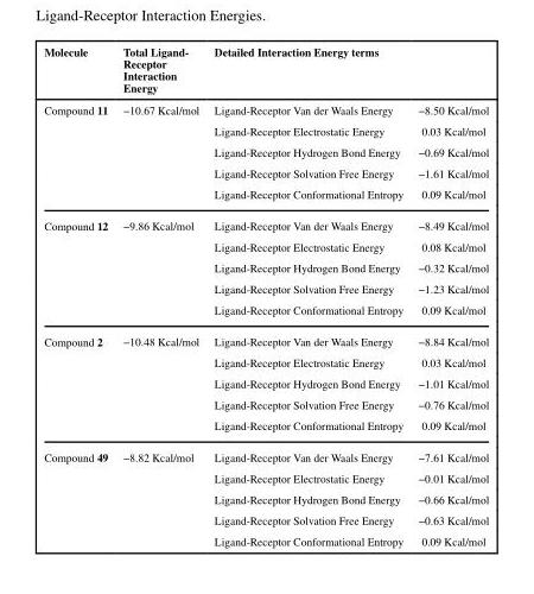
<table><thead><tr><td>Molecule</td><td>Total Ligand- Receptor Interaction Energy</td><td>Detailed Interaction Energy terms</td><td></td></tr></thead><tbody><tr><td rowspan="5">Compound 11</td><td>−10.67 Kcal/mol</td><td>Ligand-Receptor Van der Waals Energy</td><td>−8.50 Kcal/mol</td></tr><tr><td></td><td>Ligand-Receptor Electrostatic Energy</td><td>0.03 Kcal/mol</td></tr><tr><td></td><td>Ligand-Receptor Hydrogen Bond Energy</td><td>−0.69 Kcal/mol</td></tr><tr><td></td><td>Ligand-Receptor Solvation Free Energy</td><td>−1.61 Kcal/mol</td></tr><tr><td></td><td>Ligand-Receptor Conformational Entropy</td><td>0.09 Kcal/mol</td></tr><tr><td rowspan="5">Compound 12</td><td>−9.86 Kcal/mol</td><td>Ligand-Receptor Van der Waals Energy</td><td>−8.49 Kcal/mol</td></tr><tr><td></td><td>Ligand-Receptor Electrostatic Energy</td><td>0.08 Kcal/mol</td></tr><tr><td></td><td>Ligand-Receptor Hydrogen Bond Energy</td><td>−0.32 Kcal/mol</td></tr><tr><td></td><td>Ligand-Receptor Solvation Free Energy</td><td>−1.23 Kcal/mol</td></tr><tr><td></td><td>Ligand-Receptor Conformational Entropy</td><td>0.09 Kcal/mol</td></tr><tr><td rowspan="5">Compound 2</td><td>−10.48 Kcal/mol</td><td>Ligand-Receptor Van der Waals Energy</td><td>−8.84 Kcal/mol</td></tr><tr><td></td><td>Ligand-Receptor Electrostatic Energy</td><td>0.03 Kcal/mol</td></tr><tr><td></td><td>Ligand-Receptor Hydrogen Bond Energy</td><td>−1.01 Kcal/mol</td></tr><tr><td></td><td>Ligand-Receptor Solvation Free Energy</td><td>−0.76 Kcal/mol</td></tr><tr><td></td><td>Ligand-Receptor Conformational Entropy</td><td>0.09 Kcal/mol</td></tr><tr><td rowspan="5">Compound 49</td><td>−8.82 Kcal/mol</td><td>Ligand-Receptor Van der Waals Energy</td><td>−7.61 Kcal/mol</td></tr><tr><td></td><td>Ligand-Receptor Electrostatic Energy</td><td>−0.01 Kcal/mol</td></tr><tr><td></td><td>Ligand-Receptor Hydrogen Bond Energy</td><td>−0.66 Kcal/mol</td></tr><tr><td></td><td>Ligand-Receptor Solvation Free Energy</td><td>−0.63 Kcal/mol</td></tr><tr><td></td><td>Ligand-Receptor Conformational Entropy</td><td>0.09 Kcal/mol</td></tr></tbody></table>